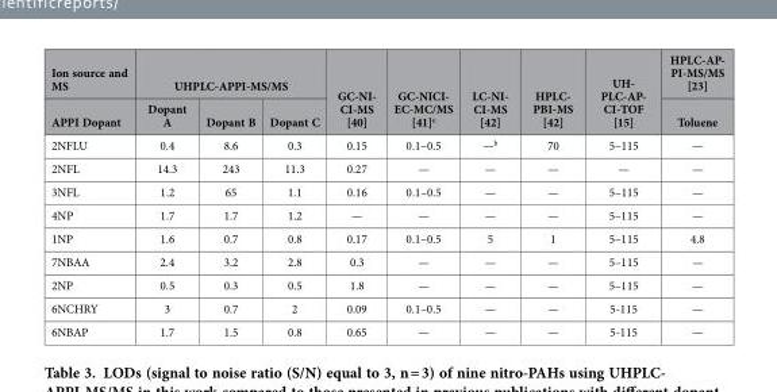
<table><thead><tr><td rowspan="2">Ion source and MS APPI Dopant</td><td colspan="3">UHPLC-APPI-MS/MS</td><td rowspan="2">GC-NI- CI-MS [40]</td><td rowspan="2">GC-NICI- EC-MC/MS [41]<sup>c</sup></td><td rowspan="2">LC-NI- CI-MS [42]</td><td rowspan="2">HPLC- PBI-MS [42]</td><td rowspan="2">UH- PLC-AP- CI-TOF [15]</td><td rowspan="2">HPLC-AP- PI-MS/MS [23] Toluene</td></tr><tr><td>Dopant A</td><td>Dopant B</td><td>Dopant C</td></tr></thead><tbody><tr><td>2NFLU</td><td>0.4</td><td>8.6</td><td>0.3</td><td>0.15</td><td>0.1–0.5</td><td>—b</td><td>70</td><td>5–115</td><td>—</td></tr><tr><td>2NFL</td><td>14.3</td><td>243</td><td>11.3</td><td>0.27</td><td>—</td><td>—</td><td>—</td><td>—</td><td>—</td></tr><tr><td>3NFL</td><td>1.2</td><td>65</td><td>1.1</td><td>0.16</td><td>0.1–0.5</td><td>—</td><td>—</td><td>5–115</td><td>—</td></tr><tr><td>4NP</td><td>1.7</td><td>1.7</td><td>1.2</td><td>—</td><td>—</td><td>—</td><td>—</td><td>5–115</td><td>—</td></tr><tr><td>1NP</td><td>1.6</td><td>0.7</td><td>0.8</td><td>0.17</td><td>0.1–0.5</td><td>5</td><td>1</td><td>5–115</td><td>4.8</td></tr><tr><td>7NBAA</td><td>2.4</td><td>3.2</td><td>2.8</td><td>0.3</td><td>—</td><td>—</td><td>—</td><td>5–115</td><td>—</td></tr><tr><td>2NP</td><td>0.5</td><td>0.3</td><td>0.5</td><td>1.8</td><td>—</td><td>—</td><td>—</td><td>5–115</td><td>—</td></tr><tr><td>6NCHRY</td><td>3</td><td>0.7</td><td>2</td><td>0.09</td><td>0.1–0.5</td><td>—</td><td>—</td><td>5-115</td><td>—</td></tr><tr><td>6NBAP</td><td>1.7</td><td>1.5</td><td>0.8</td><td>0.65</td><td>—</td><td>—</td><td>—</td><td>5-115</td><td>—</td></tr></tbody></table>